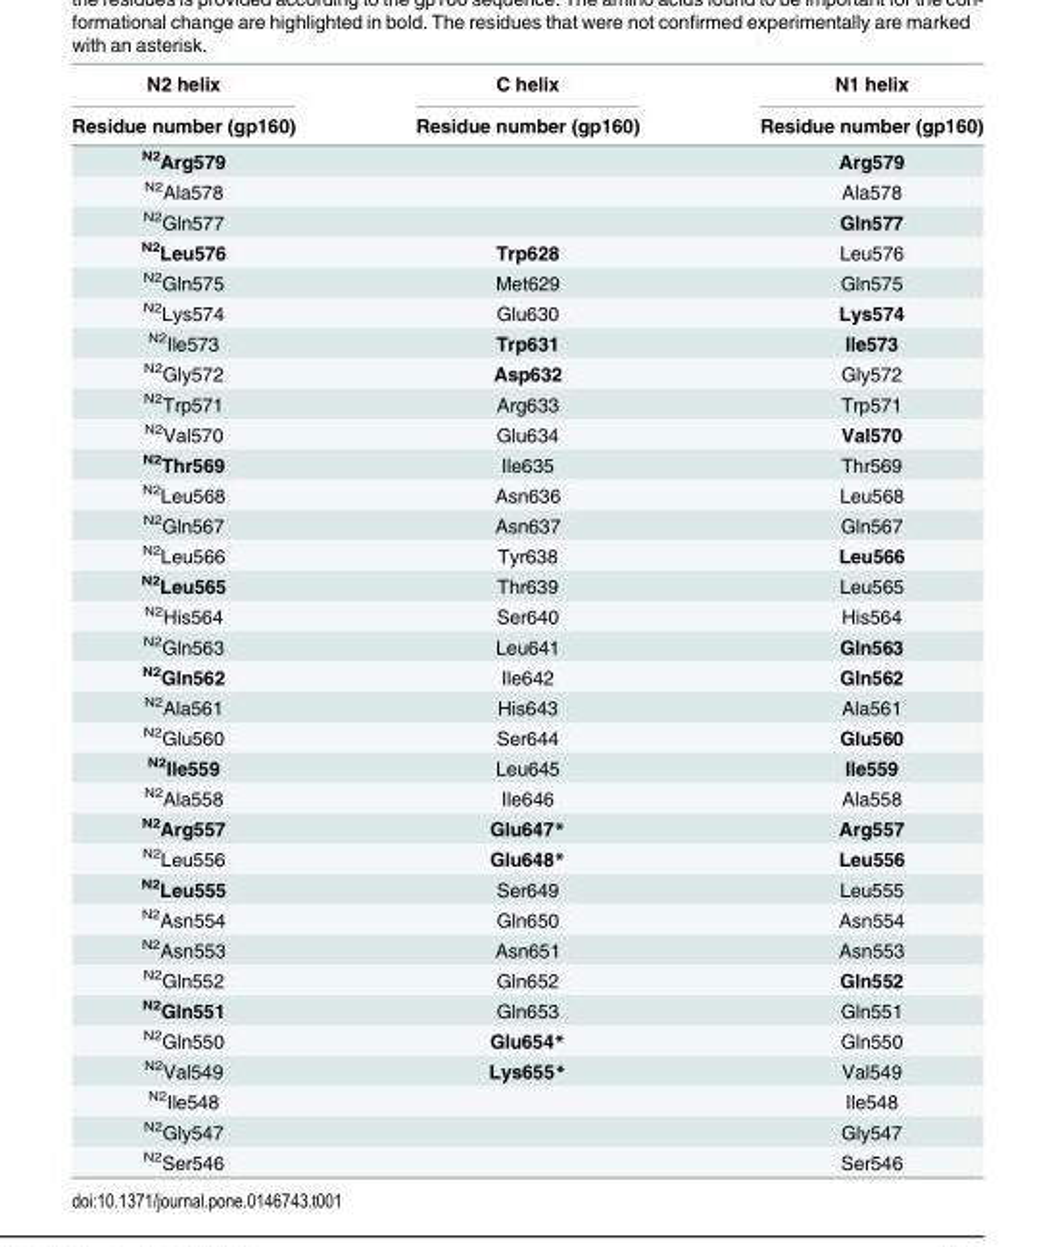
<table><thead><tr><td rowspan="2">N2 helix Residue number (gp160)</td><td rowspan="2">C helix Residue number (gp160)</td><td rowspan="2">N1 helix Residue number (gp160)</td></tr><tr></tr></thead><tbody><tr><td><sup>N2</sup>Arg579</td><td></td><td>Arg579</td></tr><tr><td><sup>N2</sup>Ala578</td><td></td><td>Ala578</td></tr><tr><td><sup>N2</sup>Gln577</td><td></td><td>Gln577</td></tr><tr><td><sup>N2</sup>Leu576</td><td>Trp628</td><td>Leu576</td></tr><tr><td><sup>N2</sup>Gln575</td><td>Met629</td><td>Gln575</td></tr><tr><td><sup>N2</sup>Lys574</td><td>Glu630</td><td>Lys574</td></tr><tr><td><sup>N2</sup>Ile573</td><td>Trp631</td><td>Ile573</td></tr><tr><td><sup>N2</sup>Gly572</td><td>Asp632</td><td>Gly572</td></tr><tr><td><sup>N2</sup>Trp571</td><td>Arg633</td><td>Trp571</td></tr><tr><td><sup>N2</sup>Val570</td><td>Glu634</td><td>Val570</td></tr><tr><td><sup>N2</sup>Thr569</td><td>Ile635</td><td>Thr569</td></tr><tr><td><sup>N2</sup>Leu568</td><td>Asn636</td><td>Leu568</td></tr><tr><td><sup>N2</sup>Gln567</td><td>Asn637</td><td>Gln567</td></tr><tr><td><sup>N2</sup>Leu566</td><td>Tyr638</td><td>Leu566</td></tr><tr><td><sup>N2</sup>Leu565</td><td>Thr639</td><td>Leu565</td></tr><tr><td><sup>N2</sup>His564</td><td>Ser640</td><td>His564</td></tr><tr><td><sup>N2</sup>Gln563</td><td>Leu641</td><td>Gln563</td></tr><tr><td><sup>N2</sup>Gln562</td><td>Ile642</td><td>Gln562</td></tr><tr><td><sup>N2</sup>Ala561</td><td>His643</td><td>Ala561</td></tr><tr><td><sup>N2</sup>Glu560</td><td>Ser644</td><td>Glu560</td></tr><tr><td><sup>N2</sup>Ile559</td><td>Leu645</td><td>Ile559</td></tr><tr><td><sup>N2</sup>Ala558</td><td>Ile646</td><td>Ala558</td></tr><tr><td><sup>N2</sup>Arg557</td><td>Glu647*</td><td>Arg557</td></tr><tr><td><sup>N2</sup>Leu556</td><td>Glu648*</td><td>Leu556</td></tr><tr><td><sup>N2</sup>Leu555</td><td>Ser649</td><td>Leu555</td></tr><tr><td><sup>N2</sup>Asn554</td><td>Gln650</td><td>Asn554</td></tr><tr><td><sup>N2</sup>Asn553</td><td>Asn651</td><td>Asn553</td></tr><tr><td><sup>N2</sup>Gln552</td><td>Gln652</td><td>Gln552</td></tr><tr><td><sup>N2</sup>Gln551</td><td>Gln653</td><td>Gln551</td></tr><tr><td><sup>N2</sup>Gln550</td><td>Glu654*</td><td>Gln550</td></tr><tr><td><sup>N2</sup>Val549</td><td>Lys655*</td><td>Val549</td></tr><tr><td><sup>N2</sup>Ile548</td><td></td><td>Ile548</td></tr><tr><td><sup>N2</sup>Gly547</td><td></td><td>Gly547</td></tr><tr><td><sup>N2</sup>Ser546</td><td></td><td>Ser546</td></tr></tbody></table>